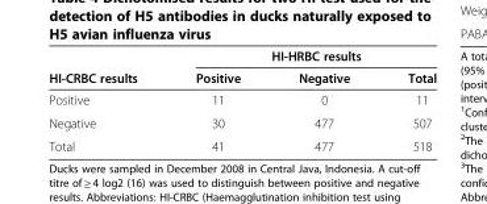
<table><thead><tr><td rowspan="2">HI-CRBC results</td><td colspan="3">HI-HRBC results</td></tr><tr><td>Positive</td><td>Negative</td><td>Total</td></tr></thead><tbody><tr><td>Positive</td><td>11</td><td>0</td><td>11</td></tr><tr><td>Negative</td><td>30</td><td>477</td><td>507</td></tr><tr><td>Total</td><td>41</td><td>477</td><td>518</td></tr></tbody></table>